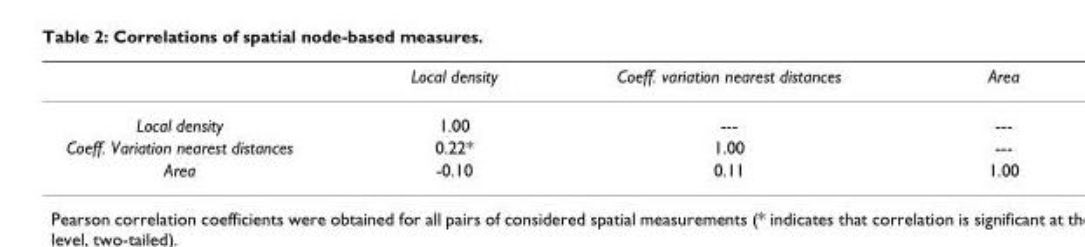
<table><thead><tr><td></td><td>Local density</td><td>Coeff. variation nearest distances</td><td>Area</td></tr></thead><tbody><tr><td>Local density</td><td>1.00</td><td>---</td><td>---</td></tr><tr><td>Coeff. Variation nearest distances</td><td>0.22*</td><td>1.00</td><td>---</td></tr><tr><td>Area</td><td>-0.10</td><td>0.11</td><td>1.00</td></tr></tbody></table>